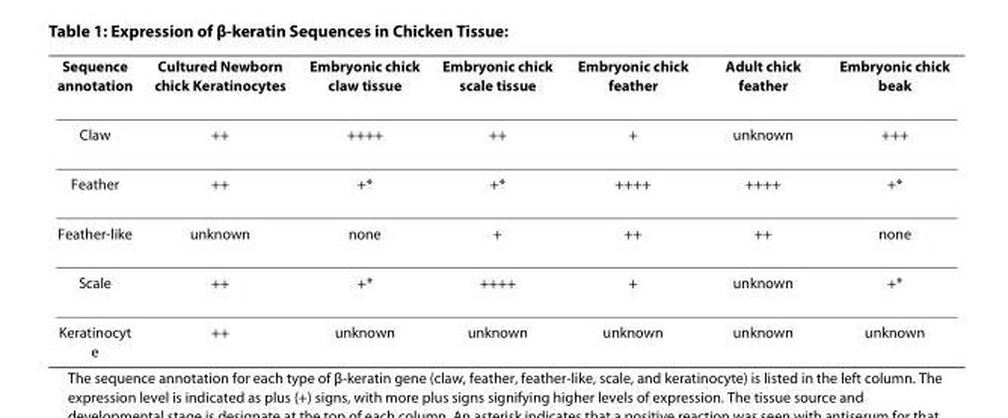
<table><thead><tr><td>Sequence annotation</td><td>Cultured Newborn chick Keratinocytes</td><td>Embryonic chick claw tissue</td><td>Embryonic chick scale tissue</td><td>Embryonic chick feather</td><td>Adult chick feather</td><td>Embryonic chick beak</td></tr></thead><tbody><tr><td>Claw</td><td>++</td><td>++++</td><td>++</td><td>+</td><td>unknown</td><td>+++</td></tr><tr><td>Feather</td><td>++</td><td>+*</td><td>+*</td><td>++++</td><td>++++</td><td>+*</td></tr><tr><td>Feather-like</td><td>unknown</td><td>none</td><td>+</td><td>++</td><td>++</td><td>none</td></tr><tr><td>Scale</td><td>++</td><td>+*</td><td>++++</td><td>+</td><td>unknown</td><td>+*</td></tr><tr><td>Keratinocyt e</td><td>++</td><td>unknown</td><td>unknown</td><td>unknown</td><td>unknown</td><td>unknown</td></tr></tbody></table>